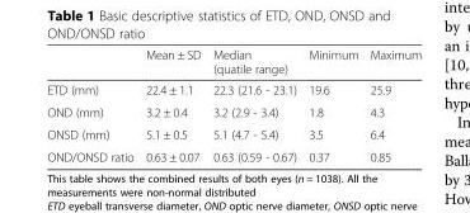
<table><thead><tr><td></td><td>Mean ± SD</td><td>Median (quatile range)</td><td>Minimum</td><td>Maximum</td></tr></thead><tbody><tr><td>ETD (mm)</td><td>22.4 ± 1.1</td><td>22.3 (21.6 - 23.1)</td><td>19.6</td><td>25.9</td></tr><tr><td>OND (mm)</td><td>3.2 ± 0.4</td><td>3.2 (2.9 - 3.4)</td><td>1.8</td><td>4.3</td></tr><tr><td>ONSD (mm)</td><td>5.1 ± 0.5</td><td>5.1 (4.7 - 5.4)</td><td>3.5</td><td>6.4</td></tr><tr><td>OND/ONSD ratio</td><td>0.63 ± 0.07</td><td>0.63 (0.59 - 0.67)</td><td>0.37</td><td>0.85</td></tr></tbody></table>